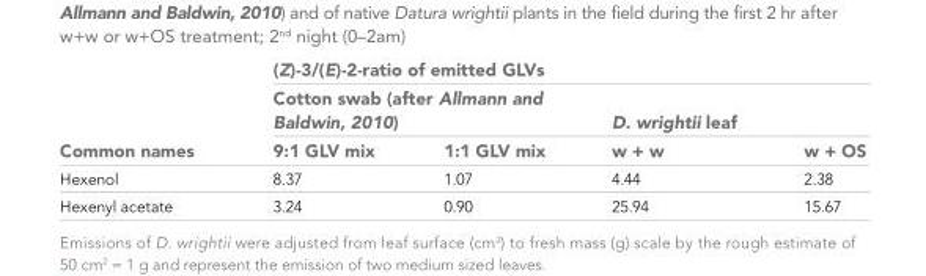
<table><thead><tr><td rowspan="3">Common names</td><td colspan="4">(Z)-3/(E)-2-ratio of emitted GLVs</td></tr><tr><td colspan="2">Cotton swab (after Allmann and Baldwin, 2010)</td><td colspan="2">D. wrightii leaf</td></tr><tr><td>9:1 GLV mix</td><td>1:1 GLV mix</td><td>w + w</td><td>w + OS</td></tr></thead><tbody><tr><td>Hexenol</td><td>8.37</td><td>1.07</td><td>4.44</td><td>2.38</td></tr><tr><td>Hexenyl acetate</td><td>3.24</td><td>0.90</td><td>25.94</td><td>15.67</td></tr></tbody></table>